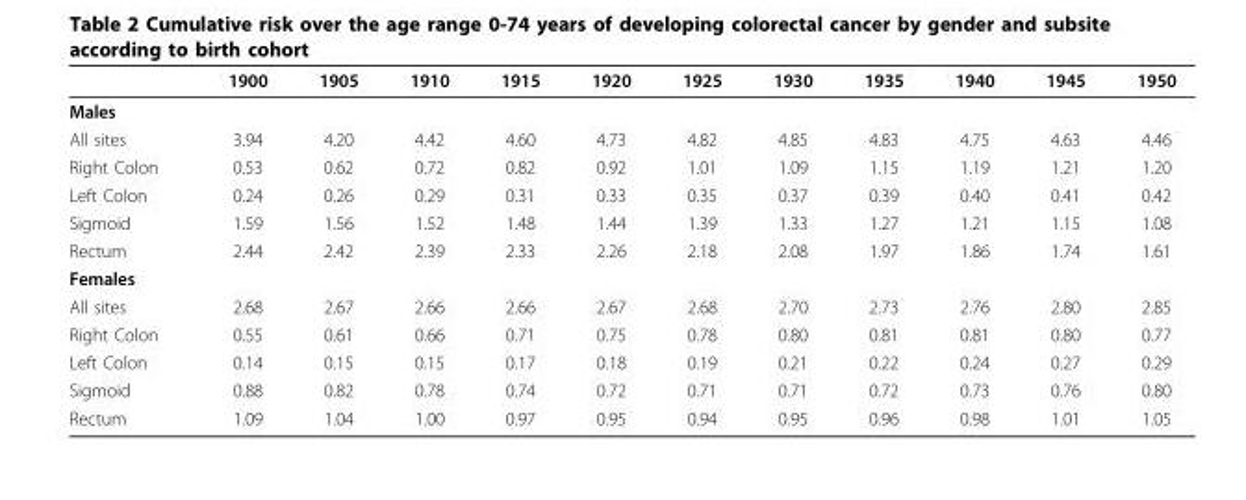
<table><thead><tr><td></td><td>1900</td><td>1905</td><td>1910</td><td>1915</td><td>1920</td><td>1925</td><td>1930</td><td>1935</td><td>1940</td><td>1945</td><td>1950</td></tr></thead><tbody><tr><td colspan="12">Males</td></tr><tr><td>All sites</td><td>3.94</td><td>4.20</td><td>4.42</td><td>4.60</td><td>4.73</td><td>4.82</td><td>4.85</td><td>4.83</td><td>4.75</td><td>4.63</td><td>4.46</td></tr><tr><td>Right Colon</td><td>0.53</td><td>0.62</td><td>0.72</td><td>0.82</td><td>0.92</td><td>1.01</td><td>1.09</td><td>1.15</td><td>1.19</td><td>1.21</td><td>1.20</td></tr><tr><td>Left Colon</td><td>0.24</td><td>0.26</td><td>0.29</td><td>0.31</td><td>0.33</td><td>0.35</td><td>0.37</td><td>0.39</td><td>0.40</td><td>0.41</td><td>0.42</td></tr><tr><td>Sigmoid</td><td>1.59</td><td>1.56</td><td>1.52</td><td>1.48</td><td>1.44</td><td>1.39</td><td>1.33</td><td>1.27</td><td>1.21</td><td>1.15</td><td>1.08</td></tr><tr><td>Rectum</td><td>2.44</td><td>2.42</td><td>2.39</td><td>2.33</td><td>2.26</td><td>2.18</td><td>2.08</td><td>1.97</td><td>1.86</td><td>1.74</td><td>1.61</td></tr><tr><td colspan="12">Females</td></tr><tr><td>All sites</td><td>2.68</td><td>2.67</td><td>2.66</td><td>2.66</td><td>2.67</td><td>2.68</td><td>2.70</td><td>2.73</td><td>2.76</td><td>2.80</td><td>2.85</td></tr><tr><td>Right Colon</td><td>0.55</td><td>0.61</td><td>0.66</td><td>0.71</td><td>0.75</td><td>0.78</td><td>0.80</td><td>0.81</td><td>0.81</td><td>0.80</td><td>0.77</td></tr><tr><td>Left Colon</td><td>0.14</td><td>0.15</td><td>0.15</td><td>0.17</td><td>0.18</td><td>0.19</td><td>0.21</td><td>0.22</td><td>0.24</td><td>0.27</td><td>0.29</td></tr><tr><td>Sigmoid</td><td>0.88</td><td>0.82</td><td>0.78</td><td>0.74</td><td>0.72</td><td>0.71</td><td>0.71</td><td>0.72</td><td>0.73</td><td>0.76</td><td>0.80</td></tr><tr><td>Rectum</td><td>1.09</td><td>1.04</td><td>1.00</td><td>0.97</td><td>0.95</td><td>0.94</td><td>0.95</td><td>0.96</td><td>0.98</td><td>1.01</td><td>1.05</td></tr></tbody></table>